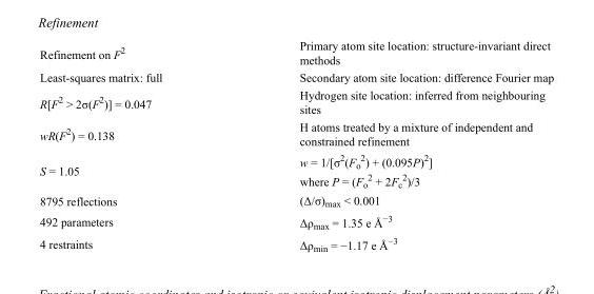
<table><tbody><tr><td>Refinement on F<sup>2</sup></td><td>Primary atom site location: structure-invariant direct methods</td></tr><tr><td>Least-squares matrix: full</td><td>Secondary atom site location: difference Fourier map</td></tr><tr><td>R[F<sup>2</sup> &gt; 2σ(F<sup>2</sup>)] = 0.047</td><td>Hydrogen site location: inferred from neighbouring sites</td></tr><tr><td>wR(F<sup>2</sup>) = 0.138</td><td>H atoms treated by a mixture of independent and constrained refinement</td></tr><tr><td>S = 1.05</td><td>w = 1/[σ<sup>2</sup>(F<sub>o</sub> <sup>2</sup>) + (0.095P)<sup>2</sup>] where P = (F<sub>o</sub> <sup>2</sup> + 2F<sub>c</sub> <sup>2</sup>)/3</td></tr><tr><td>8795 reflections</td><td>(Δ/σ)<sub>max</sub> &lt; 0.001</td></tr><tr><td>492 parameters</td><td>Δρ<sub>max</sub> = 1.35 e Å<sup>−3</sup></td></tr><tr><td>4 restraints</td><td>Δρ<sub>min</sub> = −1.17 e Å<sup>−3</sup></td></tr></tbody></table>